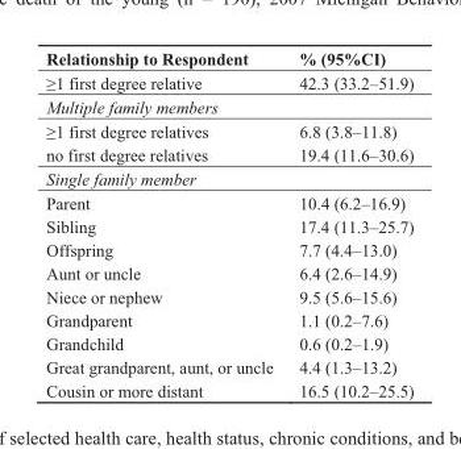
<table><thead><tr><td>Relationship to Respondent</td><td>% (95%CI)</td></tr></thead><tbody><tr><td>≥1 first degree relative</td><td>42.3 (33.2–51.9)</td></tr><tr><td colspan="2">Multiple family members</td></tr><tr><td>≥1 first degree relatives</td><td>6.8 (3.8–11.8)</td></tr><tr><td>no first degree relatives</td><td>19.4 (11.6–30.6)</td></tr><tr><td colspan="2">Single family member</td></tr><tr><td>Parent</td><td>10.4 (6.2–16.9)</td></tr><tr><td>Sibling</td><td>17.4 (11.3–25.7)</td></tr><tr><td>Offspring</td><td>7.7 (4.4–13.0)</td></tr><tr><td>Aunt or uncle</td><td>6.4 (2.6–14.9)</td></tr><tr><td>Niece or nephew</td><td>9.5 (5.6–15.6)</td></tr><tr><td>Grandparent</td><td>1.1 (0.2–7.6)</td></tr><tr><td>Grandchild</td><td>0.6 (0.2–1.9)</td></tr><tr><td>Great grandparent, aunt, or uncle</td><td>4.4 (1.3–13.2)</td></tr><tr><td>Cousin or more distant</td><td>16.5 (10.2–25.5)</td></tr></tbody></table>